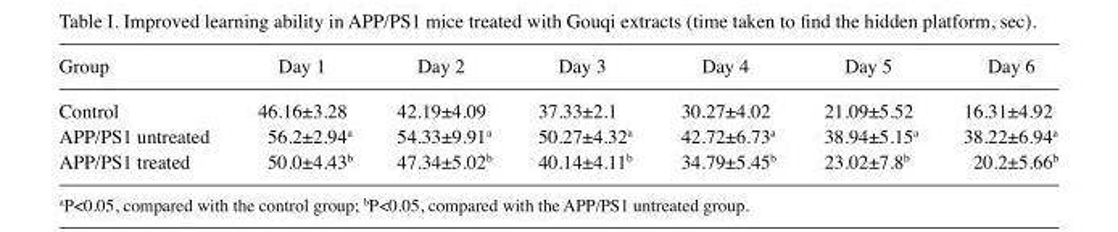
<table><thead><tr><td>Group</td><td>Day 1</td><td>Day 2</td><td>Day 3</td><td>Day 4</td><td>Day 5</td><td>Day 6</td></tr></thead><tbody><tr><td>Control</td><td>46.16±3.28</td><td>42.19±4.09</td><td>37.33±2.1</td><td>30.27±4.02</td><td>21.09±5.52</td><td>16.31±4.92</td></tr><tr><td>APP/PS1 untreated</td><td>56.2±2.94<sup>a</sup></td><td>54.33±9.91<sup>a</sup></td><td>50.27±4.32<sup>a</sup></td><td>42.72±6.73<sup>a</sup></td><td>38.94±5.15<sup>a</sup></td><td>38.22±6.94<sup>a</sup></td></tr><tr><td>APP/PS1 treated</td><td>50.0±4.43<sup>b</sup></td><td>47.34±5.02<sup>b</sup></td><td>40.14±4.11<sup>b</sup></td><td>34.79±5.45<sup>b</sup></td><td>23.02±7.8<sup>b</sup></td><td>20.2±5.66<sup>b</sup></td></tr></tbody></table>